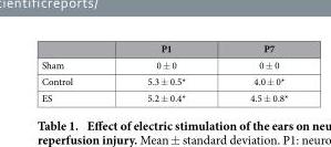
<table><thead><tr><td></td><td>P1</td><td>P7</td></tr></thead><tbody><tr><td>Sham</td><td>0 ± 0</td><td>0 ± 0</td></tr><tr><td>Control</td><td>5.3 ± 0.5*</td><td>4.0 ± 0*</td></tr><tr><td>ES</td><td>5.2 ± 0.4*</td><td>4.5 ± 0.8*</td></tr></tbody></table>